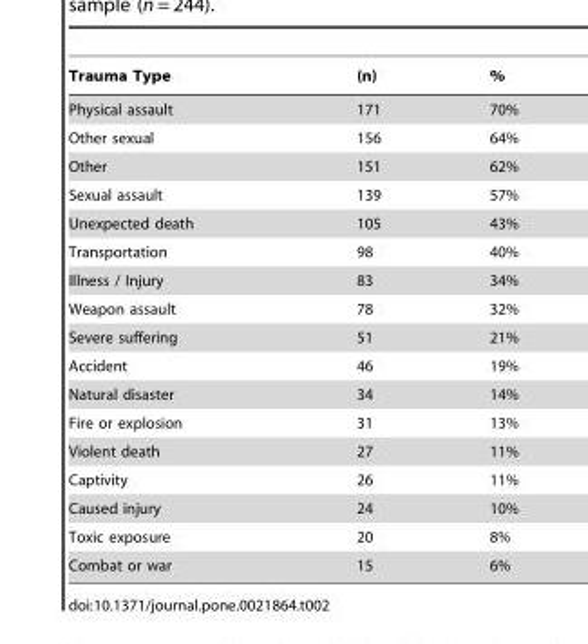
<table><thead><tr><td>Trauma Type</td><td>(n)</td><td>%</td></tr></thead><tbody><tr><td>Physical assault</td><td>171</td><td>70%</td></tr><tr><td>Other sexual</td><td>156</td><td>64%</td></tr><tr><td>Other</td><td>151</td><td>62%</td></tr><tr><td>Sexual assault</td><td>139</td><td>57%</td></tr><tr><td>Unexpected death</td><td>105</td><td>43%</td></tr><tr><td>Transportation</td><td>98</td><td>40%</td></tr><tr><td>Illness / Injury</td><td>83</td><td>34%</td></tr><tr><td>Weapon assault</td><td>78</td><td>32%</td></tr><tr><td>Severe suffering</td><td>51</td><td>21%</td></tr><tr><td>Accident</td><td>46</td><td>19%</td></tr><tr><td>Natural disaster</td><td>34</td><td>14%</td></tr><tr><td>Fire or explosion</td><td>31</td><td>13%</td></tr><tr><td>Violent death</td><td>27</td><td>11%</td></tr><tr><td>Captivity</td><td>26</td><td>11%</td></tr><tr><td>Caused injury</td><td>24</td><td>10%</td></tr><tr><td>Toxic exposure</td><td>20</td><td>8%</td></tr><tr><td>Combat or war</td><td>15</td><td>6%</td></tr></tbody></table>